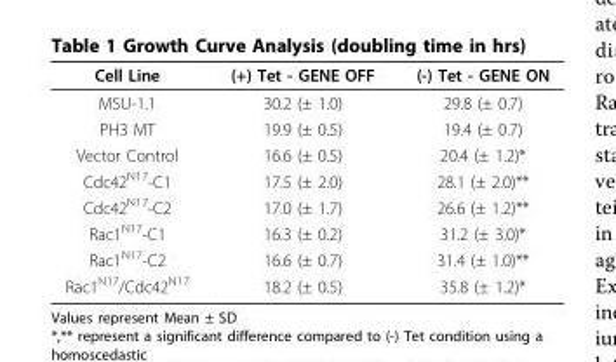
<table><thead><tr><td>Cell Line</td><td>(+) Tet - GENE OFF</td><td>(-) Tet - GENE ON</td></tr></thead><tbody><tr><td>MSU-1.1</td><td>30.2 (± 1.0)</td><td>29.8 (± 0.7)</td></tr><tr><td>PH3 MT</td><td>19.9 (± 0.5)</td><td>19.4 (± 0.7)</td></tr><tr><td>Vector Control</td><td>16.6 (± 0.5)</td><td>20.4 (± 1.2)*</td></tr><tr><td>Cdc42<sup>N17</sup>-C1</td><td>17.5 (± 2.0)</td><td>28.1 (± 2.0)**</td></tr><tr><td>Cdc42<sup>N17</sup>-C2</td><td>17.0 (± 1.7)</td><td>26.6 (± 1.2)**</td></tr><tr><td>Rac1<sup>N17</sup>-C1</td><td>16.3 (± 0.2)</td><td>31.2 (± 3.0)*</td></tr><tr><td>Rac1<sup>N17</sup>-C2</td><td>16.6 (± 0.7)</td><td>31.4 (± 1.0)**</td></tr><tr><td>Rac1<sup>N17</sup>/Cdc42<sup>N17</sup></td><td>18.2 (± 0.5)</td><td>35.8 (± 1.2)*</td></tr></tbody></table>